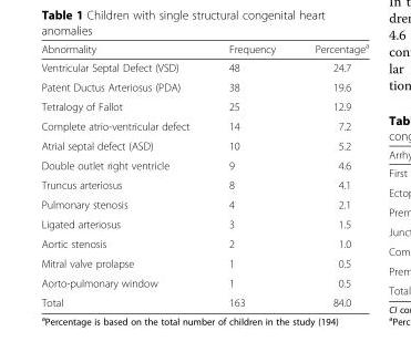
<table><thead><tr><td>Abnormality</td><td>Frequency</td><td>Percentage<sup>a</sup></td></tr></thead><tbody><tr><td>Ventricular Septal Defect (VSD)</td><td>48</td><td>24.7</td></tr><tr><td>Patent Ductus Arteriosus (PDA)</td><td>38</td><td>19.6</td></tr><tr><td>Tetralogy of Fallot</td><td>25</td><td>12.9</td></tr><tr><td>Complete atrio-ventricular defect</td><td>14</td><td>7.2</td></tr><tr><td>Atrial septal defect (ASD)</td><td>10</td><td>5.2</td></tr><tr><td>Double outlet right ventricle</td><td>9</td><td>4.6</td></tr><tr><td>Truncus arteriosus</td><td>8</td><td>4.1</td></tr><tr><td>Pulmonary stenosis</td><td>4</td><td>2.1</td></tr><tr><td>Ligated arteriosus</td><td>3</td><td>1.5</td></tr><tr><td>Aortic stenosis</td><td>2</td><td>1.0</td></tr><tr><td>Mitral valve prolapse</td><td>1</td><td>0.5</td></tr><tr><td>Aorto-pulmonary window</td><td>1</td><td>0.5</td></tr><tr><td>Total</td><td>163</td><td>84.0</td></tr></tbody></table>